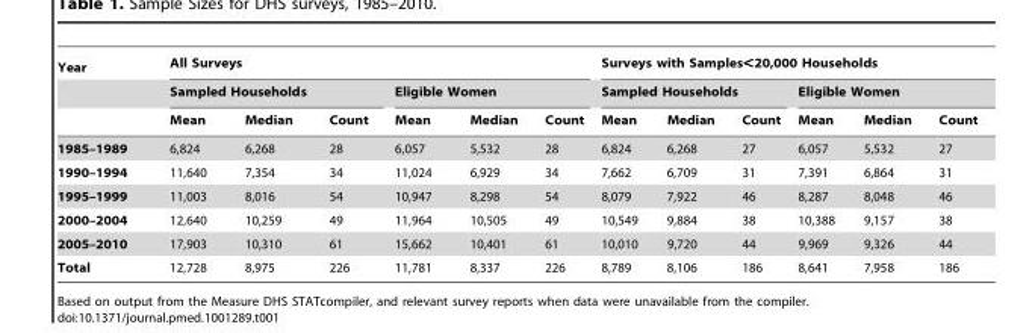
<table><thead><tr><td rowspan="3">Year</td><td colspan="6">All Surveys</td><td colspan="6">Surveys with Samples&lt;20,000 Households</td></tr><tr><td colspan="3">Sampled Households</td><td colspan="3">Eligible Women</td><td colspan="3">Sampled Households</td><td colspan="3">Eligible Women</td></tr><tr><td>Mean</td><td>Median</td><td>Count</td><td>Mean</td><td>Median</td><td>Count</td><td>Mean</td><td>Median</td><td>Count</td><td>Mean</td><td>Median</td><td>Count</td></tr></thead><tbody><tr><td>1985–1989</td><td>6,824</td><td>6,268</td><td>28</td><td>6,057</td><td>5,532</td><td>28</td><td>6,824</td><td>6,268</td><td>27</td><td>6,057</td><td>5,532</td><td>27</td></tr><tr><td>1990–1994</td><td>11,640</td><td>7,354</td><td>34</td><td>11,024</td><td>6,929</td><td>34</td><td>7,662</td><td>6,709</td><td>31</td><td>7,391</td><td>6,864</td><td>31</td></tr><tr><td>1995–1999</td><td>11,003</td><td>8,016</td><td>54</td><td>10,947</td><td>8,298</td><td>54</td><td>8,079</td><td>7,922</td><td>46</td><td>8,287</td><td>8,048</td><td>46</td></tr><tr><td>2000–2004</td><td>12,640</td><td>10,259</td><td>49</td><td>11,964</td><td>10,505</td><td>49</td><td>10,549</td><td>9,884</td><td>38</td><td>10,388</td><td>9,157</td><td>38</td></tr><tr><td>2005–2010</td><td>17,903</td><td>10,310</td><td>61</td><td>15,662</td><td>10,401</td><td>61</td><td>10,010</td><td>9,720</td><td>44</td><td>9,969</td><td>9,326</td><td>44</td></tr><tr><td>Total</td><td>12,728</td><td>8,975</td><td>226</td><td>11,781</td><td>8,337</td><td>226</td><td>8,789</td><td>8,106</td><td>186</td><td>8,641</td><td>7,958</td><td>186</td></tr></tbody></table>